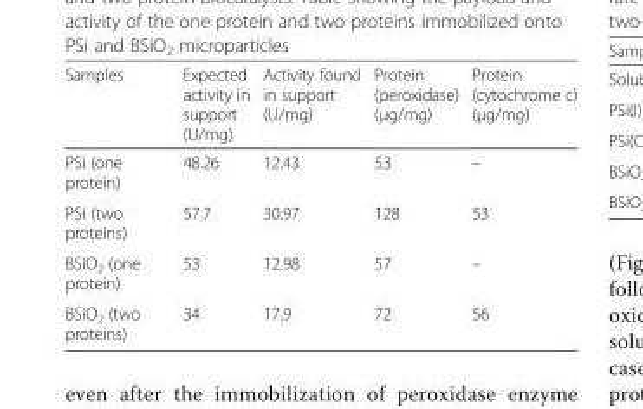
<table><thead><tr><td>Samples</td><td>Expected activity in support (U/mg)</td><td>Activity found in support (U/mg)</td><td>Protein (peroxidase) (μg/mg)</td><td>Protein (cytochrome c) (μg/mg)</td></tr></thead><tbody><tr><td>PSi (one protein)</td><td>48.26</td><td>12.43</td><td>53</td><td>–</td></tr><tr><td>PSi (two proteins)</td><td>57.7</td><td>30.97</td><td>128</td><td>53</td></tr><tr><td>BSiO<sub>2</sub> (one protein)</td><td>53</td><td>12.98</td><td>57</td><td>–</td></tr><tr><td>BSiO<sub>2</sub> (two proteins)</td><td>34</td><td>17.9</td><td>72</td><td>56</td></tr></tbody></table>